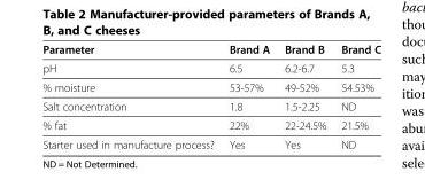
<table><thead><tr><td>Parameter</td><td>Brand A</td><td>Brand B</td><td>Brand C</td></tr></thead><tbody><tr><td>pH</td><td>6.5</td><td>6.2-6.7</td><td>5.3</td></tr><tr><td>% moisture</td><td>53-57%</td><td>49-52%</td><td>54.53%</td></tr><tr><td>Salt concentration</td><td>1.8</td><td>1.5-2.25</td><td>ND</td></tr><tr><td>% fat</td><td>22%</td><td>22-24.5%</td><td>21.5%</td></tr><tr><td>Starter used in manufacture process?</td><td>Yes</td><td>Yes</td><td>ND</td></tr></tbody></table>